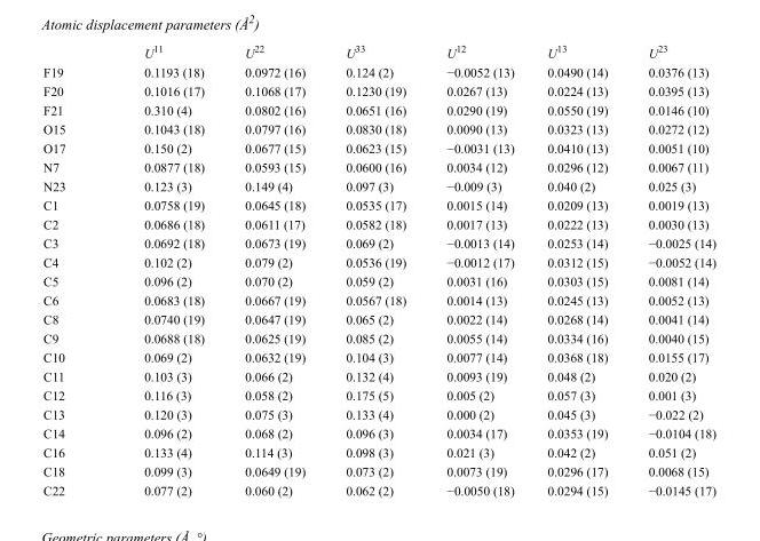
<table><thead><tr><td></td><td>U<sup>11</sup></td><td>U<sup>22</sup></td><td>U<sup>33</sup></td><td>U<sup>12</sup></td><td>U<sup>13</sup></td><td>U<sup>23</sup></td></tr></thead><tbody><tr><td>F19</td><td>0.1193 (18)</td><td>0.0972 (16)</td><td>0.124 (2)</td><td>−0.0052 (13)</td><td>0.0490 (14)</td><td>0.0376 (13)</td></tr><tr><td>F20</td><td>0.1016 (17)</td><td>0.1068 (17)</td><td>0.1230 (19)</td><td>0.0267 (13)</td><td>0.0224 (13)</td><td>0.0395 (13)</td></tr><tr><td>F21</td><td>0.310 (4)</td><td>0.0802 (16)</td><td>0.0651 (16)</td><td>0.0290 (19)</td><td>0.0550 (19)</td><td>0.0146 (10)</td></tr><tr><td>O15</td><td>0.1043 (18)</td><td>0.0797 (16)</td><td>0.0830 (18)</td><td>0.0090 (13)</td><td>0.0323 (13)</td><td>0.0272 (12)</td></tr><tr><td>O17</td><td>0.150 (2)</td><td>0.0677 (15)</td><td>0.0623 (15)</td><td>−0.0031 (13)</td><td>0.0410 (13)</td><td>0.0051 (10)</td></tr><tr><td>N7</td><td>0.0877 (18)</td><td>0.0593 (15)</td><td>0.0600 (16)</td><td>0.0034 (12)</td><td>0.0296 (12)</td><td>0.0067 (11)</td></tr><tr><td>N23</td><td>0.123 (3)</td><td>0.149 (4)</td><td>0.097 (3)</td><td>−0.009 (3)</td><td>0.040 (2)</td><td>0.025 (3)</td></tr><tr><td>C1</td><td>0.0758 (19)</td><td>0.0645 (18)</td><td>0.0535 (17)</td><td>0.0015 (14)</td><td>0.0209 (13)</td><td>0.0019 (13)</td></tr><tr><td>C2</td><td>0.0686 (18)</td><td>0.0611 (17)</td><td>0.0582 (18)</td><td>0.0017 (13)</td><td>0.0222 (13)</td><td>0.0030 (13)</td></tr><tr><td>C3</td><td>0.0692 (18)</td><td>0.0673 (19)</td><td>0.069 (2)</td><td>−0.0013 (14)</td><td>0.0253 (14)</td><td>−0.0025 (14)</td></tr><tr><td>C4</td><td>0.102 (2)</td><td>0.079 (2)</td><td>0.0536 (19)</td><td>−0.0012 (17)</td><td>0.0312 (15)</td><td>−0.0052 (14)</td></tr><tr><td>C5</td><td>0.096 (2)</td><td>0.070 (2)</td><td>0.059 (2)</td><td>0.0031 (16)</td><td>0.0303 (15)</td><td>0.0081 (14)</td></tr><tr><td>C6</td><td>0.0683 (18)</td><td>0.0667 (19)</td><td>0.0567 (18)</td><td>0.0014 (13)</td><td>0.0245 (13)</td><td>0.0052 (13)</td></tr><tr><td>C8</td><td>0.0740 (19)</td><td>0.0647 (19)</td><td>0.065 (2)</td><td>0.0022 (14)</td><td>0.0268 (14)</td><td>0.0041 (14)</td></tr><tr><td>C9</td><td>0.0688 (18)</td><td>0.0625 (19)</td><td>0.085 (2)</td><td>0.0055 (14)</td><td>0.0334 (16)</td><td>0.0040 (15)</td></tr><tr><td>C10</td><td>0.069 (2)</td><td>0.0632 (19)</td><td>0.104 (3)</td><td>0.0077 (14)</td><td>0.0368 (18)</td><td>0.0155 (17)</td></tr><tr><td>C11</td><td>0.103 (3)</td><td>0.066 (2)</td><td>0.132 (4)</td><td>0.0093 (19)</td><td>0.048 (2)</td><td>0.020 (2)</td></tr><tr><td>C12</td><td>0.116 (3)</td><td>0.058 (2)</td><td>0.175 (5)</td><td>0.005 (2)</td><td>0.057 (3)</td><td>0.001 (3)</td></tr><tr><td>C13</td><td>0.120 (3)</td><td>0.075 (3)</td><td>0.133 (4)</td><td>0.000 (2)</td><td>0.045 (3)</td><td>−0.022 (2)</td></tr><tr><td>C14</td><td>0.096 (2)</td><td>0.068 (2)</td><td>0.096 (3)</td><td>0.0034 (17)</td><td>0.0353 (19)</td><td>−0.0104 (18)</td></tr><tr><td>C16</td><td>0.133 (4)</td><td>0.114 (3)</td><td>0.098 (3)</td><td>0.021 (3)</td><td>0.042 (2)</td><td>0.051 (2)</td></tr><tr><td>C18</td><td>0.099 (3)</td><td>0.0649 (19)</td><td>0.073 (2)</td><td>0.0073 (19)</td><td>0.0296 (17)</td><td>0.0068 (15)</td></tr><tr><td>C22</td><td>0.077 (2)</td><td>0.060 (2)</td><td>0.062 (2)</td><td>−0.0050 (18)</td><td>0.0294 (15)</td><td>−0.0145 (17)</td></tr></tbody></table>